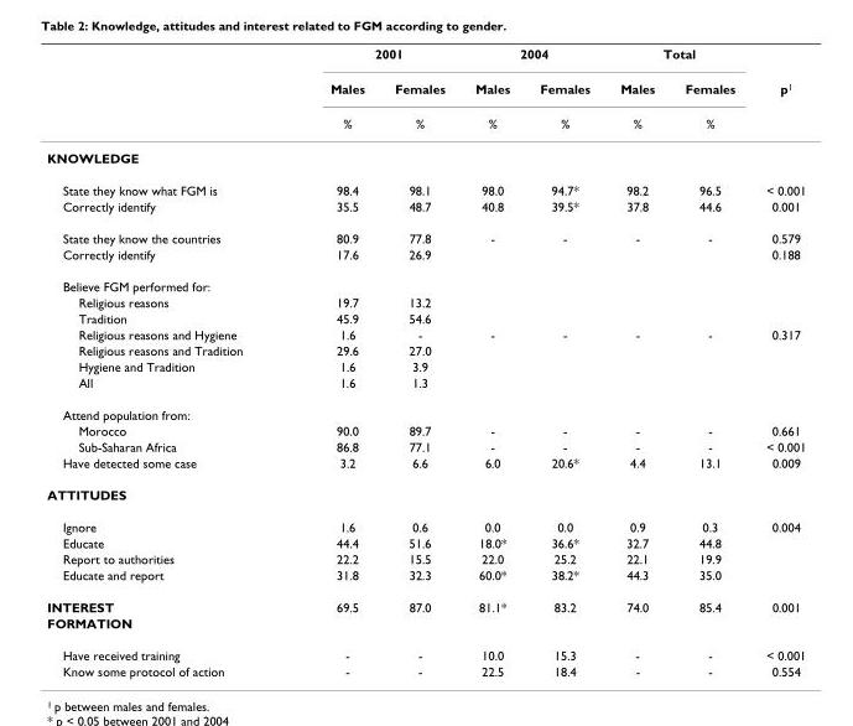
<table><thead><tr><td rowspan="3"></td><td colspan="2">2001</td><td colspan="2">2004</td><td colspan="2">Total</td><td rowspan="3">p<sup>1</sup></td></tr><tr><td rowspan="2">Males %</td><td rowspan="2">Females %</td><td rowspan="2">Males %</td><td rowspan="2">Females %</td><td rowspan="2">Males %</td><td rowspan="2">Females %</td></tr><tr></tr></thead><tbody><tr><td colspan="8">KNOWLEDGE</td></tr><tr><td>State they know what FGM is</td><td>98.4</td><td>98.1</td><td>98.0</td><td>94.7*</td><td>98.2</td><td>96.5</td><td>&lt; 0.001</td></tr><tr><td>Correctly identify</td><td>35.5</td><td>48.7</td><td>40.8</td><td>39.5*</td><td>37.8</td><td>44.6</td><td>0.001</td></tr><tr><td>State they know the countries</td><td>80.9</td><td>77.8</td><td>-</td><td>-</td><td>-</td><td>-</td><td>0.579</td></tr><tr><td>Correctly identify</td><td>17.6</td><td>26.9</td><td></td><td></td><td></td><td></td><td>0.188</td></tr><tr><td colspan="8">Believe FGM performed for:</td></tr><tr><td>Religious reasons</td><td>19.7</td><td>13.2</td><td></td><td></td><td></td><td></td><td></td></tr><tr><td>Tradition</td><td>45.9</td><td>54.6</td><td></td><td></td><td></td><td></td><td></td></tr><tr><td>Religious reasons and Hygiene</td><td>1.6</td><td>-</td><td>-</td><td>-</td><td>-</td><td>-</td><td>0.317</td></tr><tr><td>Religious reasons and Tradition</td><td>29.6</td><td>27.0</td><td></td><td></td><td></td><td></td><td></td></tr><tr><td>Hygiene and Tradition</td><td>1.6</td><td>3.9</td><td></td><td></td><td></td><td></td><td></td></tr><tr><td>All</td><td>1.6</td><td>1.3</td><td></td><td></td><td></td><td></td><td></td></tr><tr><td colspan="8">Attend population from:</td></tr><tr><td>Morocco</td><td>90.0</td><td>89.7</td><td>-</td><td>-</td><td>-</td><td>-</td><td>0.661</td></tr><tr><td>Sub-Saharan Africa</td><td>86.8</td><td>77.1</td><td>-</td><td>-</td><td>-</td><td>-</td><td>&lt; 0.001</td></tr><tr><td>Have detected some case</td><td>3.2</td><td>6.6</td><td>6.0</td><td>20.6*</td><td>4.4</td><td>13.1</td><td>0.009</td></tr><tr><td colspan="8">ATTITUDES</td></tr><tr><td>Ignore</td><td>1.6</td><td>0.6</td><td>0.0</td><td>0.0</td><td>0.9</td><td>0.3</td><td>0.004</td></tr><tr><td>Educate</td><td>44.4</td><td>51.6</td><td>18.0*</td><td>36.6*</td><td>32.7</td><td>44.8</td><td></td></tr><tr><td>Report to authorities</td><td>22.2</td><td>15.5</td><td>22.0</td><td>25.2</td><td>22.1</td><td>19.9</td><td></td></tr><tr><td>Educate and report</td><td>31.8</td><td>32.3</td><td>60.0*</td><td>38.2*</td><td>44.3</td><td>35.0</td><td></td></tr><tr><td>INTEREST</td><td>69.5</td><td>87.0</td><td>81.1*</td><td>83.2</td><td>74.0</td><td>85.4</td><td>0.001</td></tr><tr><td colspan="8">FORMATION</td></tr><tr><td>Have received training</td><td>-</td><td>-</td><td>10.0</td><td>15.3</td><td>-</td><td>-</td><td>&lt; 0.001</td></tr><tr><td>Know some protocol of action</td><td>-</td><td>-</td><td>22.5</td><td>18.4</td><td>-</td><td>-</td><td>0.554</td></tr></tbody></table>